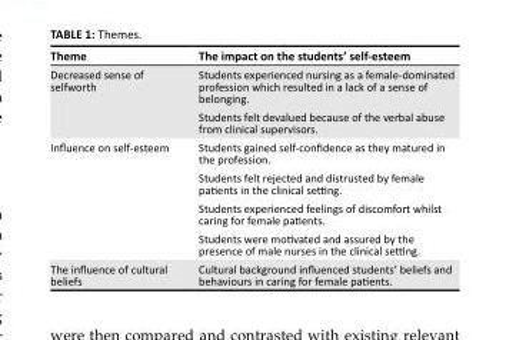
<table><thead><tr><td>Theme</td><td>The impact on the students’ self-esteem</td></tr></thead><tbody><tr><td rowspan="2">Decreased sense of selfworth</td><td>Students experienced nursing as a female-dominated profession which resulted in a lack of a sense of belonging.</td></tr><tr><td>Students felt devalued because of the verbal abuse from clinical supervisors.</td></tr><tr><td rowspan="4">Influence on self-esteem</td><td>Students gained self-confidence as they matured in the profession.</td></tr><tr><td>Students felt rejected and distrusted by female patients in the clinical setting.</td></tr><tr><td>Students experienced feelings of discomfort whilst caring for female patients.</td></tr><tr><td>Students were motivated and assured by the presence of male nurses in the clinical setting.</td></tr><tr><td>The influence of cultural beliefs</td><td>Cultural background influenced students’ beliefs and behaviours in caring for female patients.</td></tr></tbody></table>